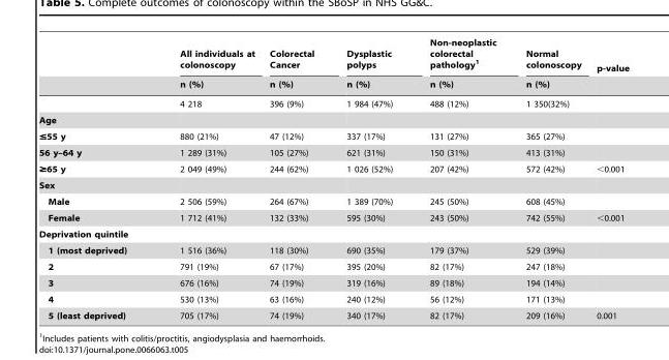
<table><thead><tr><td rowspan="2"></td><td rowspan="2">All individuals at colonoscopy n (%)</td><td rowspan="2">Colorectal Cancer n (%)</td><td rowspan="2">Dysplastic polyps n (%)</td><td rowspan="2">Non-neoplastic colorectal pathology<sup>1</sup> n (%)</td><td rowspan="2">Normal colonoscopy n (%)</td><td rowspan="2">p-value</td></tr><tr></tr></thead><tbody><tr><td></td><td>4 218</td><td>396 (9%)</td><td>1 984 (47%)</td><td>488 (12%)</td><td>1 350(32%)</td><td></td></tr><tr><td colspan="7">Age</td></tr><tr><td>≤55 y</td><td>880 (21%)</td><td>47 (12%)</td><td>337 (17%)</td><td>131 (27%)</td><td>365 (27%)</td><td></td></tr><tr><td>56 y–64 y</td><td>1 289 (31%)</td><td>105 (27%)</td><td>621 (31%)</td><td>150 (31%)</td><td>413 (31%)</td><td></td></tr><tr><td>≥65 y</td><td>2 049 (49%)</td><td>244 (62%)</td><td>1 026 (52%)</td><td>207 (42%)</td><td>572 (42%)</td><td>&lt;0.001</td></tr><tr><td colspan="7">Sex</td></tr><tr><td>Male</td><td>2 506 (59%)</td><td>264 (67%)</td><td>1 389 (70%)</td><td>245 (50%)</td><td>608 (45%)</td><td></td></tr><tr><td>Female</td><td>1 712 (41%)</td><td>132 (33%)</td><td>595 (30%)</td><td>243 (50%)</td><td>742 (55%)</td><td>&lt;0.001</td></tr><tr><td colspan="7">Deprivation quintile</td></tr><tr><td>1 (most deprived)</td><td>1 516 (36%)</td><td>118 (30%)</td><td>690 (35%)</td><td>179 (37%)</td><td>529 (39%)</td><td></td></tr><tr><td>2</td><td>791 (19%)</td><td>67 (17%)</td><td>395 (20%)</td><td>82 (17%)</td><td>247 (18%)</td><td></td></tr><tr><td>3</td><td>676 (16%)</td><td>74 (19%)</td><td>319 (16%)</td><td>89 (18%)</td><td>194 (14%)</td><td></td></tr><tr><td>4</td><td>530 (13%)</td><td>63 (16%)</td><td>240 (12%)</td><td>56 (12%)</td><td>171 (13%)</td><td></td></tr><tr><td>5 (least deprived)</td><td>705 (17%)</td><td>74 (19%)</td><td>340 (17%)</td><td>82 (17%)</td><td>209 (16%)</td><td>0.001</td></tr></tbody></table>